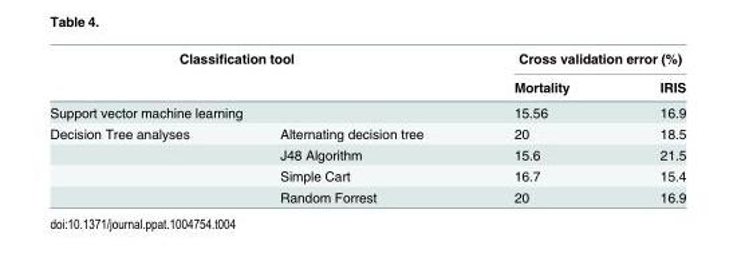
<table><thead><tr><td colspan="2">Classification tool</td><td colspan="2">Cross validation error (%)</td></tr><tr><td></td><td></td><td>Mortality</td><td>IRIS</td></tr></thead><tbody><tr><td colspan="2">Support vector machine learning</td><td>15.56</td><td>16.9</td></tr><tr><td rowspan="4">Decision Tree analyses</td><td>Alternating decision tree</td><td>20</td><td>18.5</td></tr><tr><td>J48 Algorithm</td><td>15.6</td><td>21.5</td></tr><tr><td>Simple Cart</td><td>16.7</td><td>15.4</td></tr><tr><td>Random Forrest</td><td>20</td><td>16.9</td></tr></tbody></table>